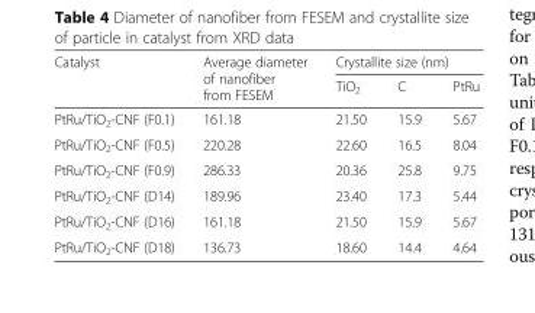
<table><thead><tr><td rowspan="2">Catalyst</td><td rowspan="2">Average diameter of nanofiber from FESEM</td><td colspan="3">Crystallite size (nm)</td></tr><tr><td>TiO<sub>2</sub></td><td>C</td><td>PtRu</td></tr></thead><tbody><tr><td>PtRu/TiO<sub>2</sub>-CNF (F0.1)</td><td>161.18</td><td>21.50</td><td>15.9</td><td>5.67</td></tr><tr><td>PtRu/TiO<sub>2</sub>-CNF (F0.5)</td><td>220.28</td><td>22.60</td><td>16.5</td><td>8.04</td></tr><tr><td>PtRu/TiO<sub>2</sub>-CNF (F0.9)</td><td>286.33</td><td>20.36</td><td>25.8</td><td>9.75</td></tr><tr><td>PtRu/TiO<sub>2</sub>-CNF (D14)</td><td>189.96</td><td>23.40</td><td>17.3</td><td>5.44</td></tr><tr><td>PtRu/TiO<sub>2</sub>-CNF (D16)</td><td>161.18</td><td>21.50</td><td>15.9</td><td>5.67</td></tr><tr><td>PtRu/TiO<sub>2</sub>-CNF (D18)</td><td>136.73</td><td>18.60</td><td>14.4</td><td>4.64</td></tr></tbody></table>